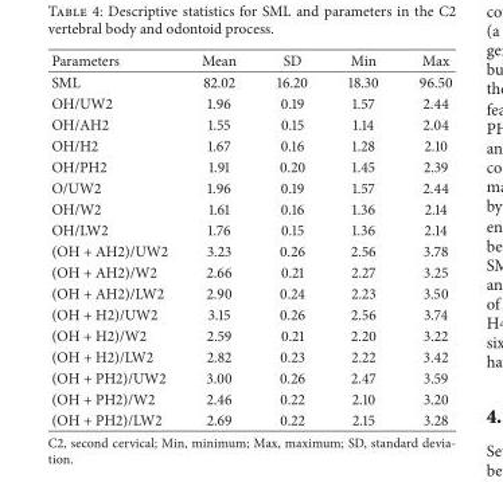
<table><thead><tr><td>Parameters</td><td>Mean</td><td>SD</td><td>Min</td><td>Max</td></tr></thead><tbody><tr><td>SML</td><td>82.02</td><td>16.20</td><td>18.30</td><td>96.50</td></tr><tr><td>OH/UW2</td><td>1.96</td><td>0.19</td><td>1.57</td><td>2.44</td></tr><tr><td>OH/AH2</td><td>1.55</td><td>0.15</td><td>1.14</td><td>2.04</td></tr><tr><td>OH/H2</td><td>1.67</td><td>0.16</td><td>1.28</td><td>2.10</td></tr><tr><td>OH/PH2</td><td>1.91</td><td>0.20</td><td>1.45</td><td>2.39</td></tr><tr><td>O/UW2</td><td>1.96</td><td>0.19</td><td>1.57</td><td>2.44</td></tr><tr><td>OH/W2</td><td>1.61</td><td>0.16</td><td>1.36</td><td>2.14</td></tr><tr><td>OH/LW2</td><td>1.76</td><td>0.15</td><td>1.36</td><td>2.14</td></tr><tr><td>(OH + AH2)/UW2</td><td>3.23</td><td>0.26</td><td>2.56</td><td>3.78</td></tr><tr><td>(OH + AH2)/W2</td><td>2.66</td><td>0.21</td><td>2.27</td><td>3.25</td></tr><tr><td>(OH + AH2)/LW2</td><td>2.90</td><td>0.24</td><td>2.23</td><td>3.50</td></tr><tr><td>(OH + H2)/UW2</td><td>3.15</td><td>0.26</td><td>2.56</td><td>3.74</td></tr><tr><td>(OH + H2)/W2</td><td>2.59</td><td>0.21</td><td>2.20</td><td>3.22</td></tr><tr><td>(OH + H2)/LW2</td><td>2.82</td><td>0.23</td><td>2.22</td><td>3.42</td></tr><tr><td>(OH + PH2)/UW2</td><td>3.00</td><td>0.26</td><td>2.47</td><td>3.59</td></tr><tr><td>(OH + PH2)/W2</td><td>2.46</td><td>0.22</td><td>2.10</td><td>3.20</td></tr><tr><td>(OH + PH2)/LW2</td><td>2.69</td><td>0.22</td><td>2.15</td><td>3.28</td></tr></tbody></table>